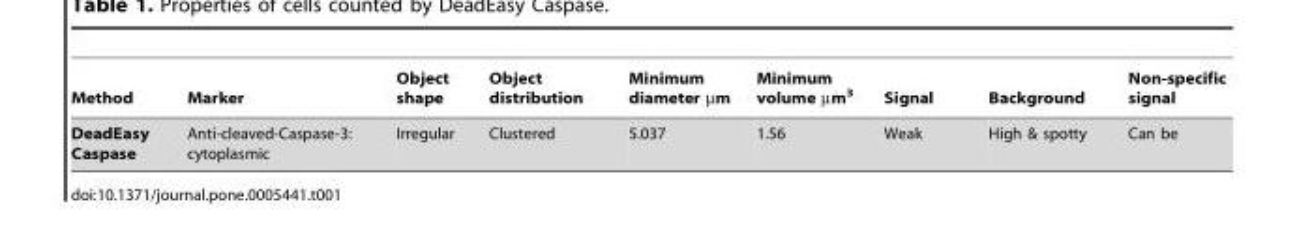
<table><thead><tr><td>Method</td><td>Marker</td><td>Object shape</td><td>Object distribution</td><td>Minimum diameter µm</td><td>Minimum volume µm<sup>3</sup></td><td>Signal</td><td>Background</td><td>Non-specific signal</td></tr></thead><tbody><tr><td>DeadEasy Caspase</td><td>Anti-cleaved-Caspase-3: cytoplasmic</td><td>Irregular</td><td>Clustered</td><td>5.037</td><td>1.56</td><td>Weak</td><td>High &amp; spotty</td><td>Can be</td></tr></tbody></table>